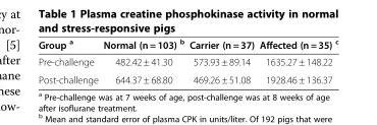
<table><thead><tr><td>Group <sup>a</sup></td><td>Normal (n = 103) <sup>b</sup></td><td>Carrier (n = 37)</td><td>Affected (n = 35) <sup>c</sup></td></tr></thead><tbody><tr><td>Pre-challenge</td><td>482.42 ± 41.30</td><td>573.93 ± 89.14</td><td>1635.27 ± 148.22</td></tr><tr><td>Post-challenge</td><td>644.37 ± 68.80</td><td>469.26 ± 51.08</td><td>1928.46 ± 136.37</td></tr></tbody></table>